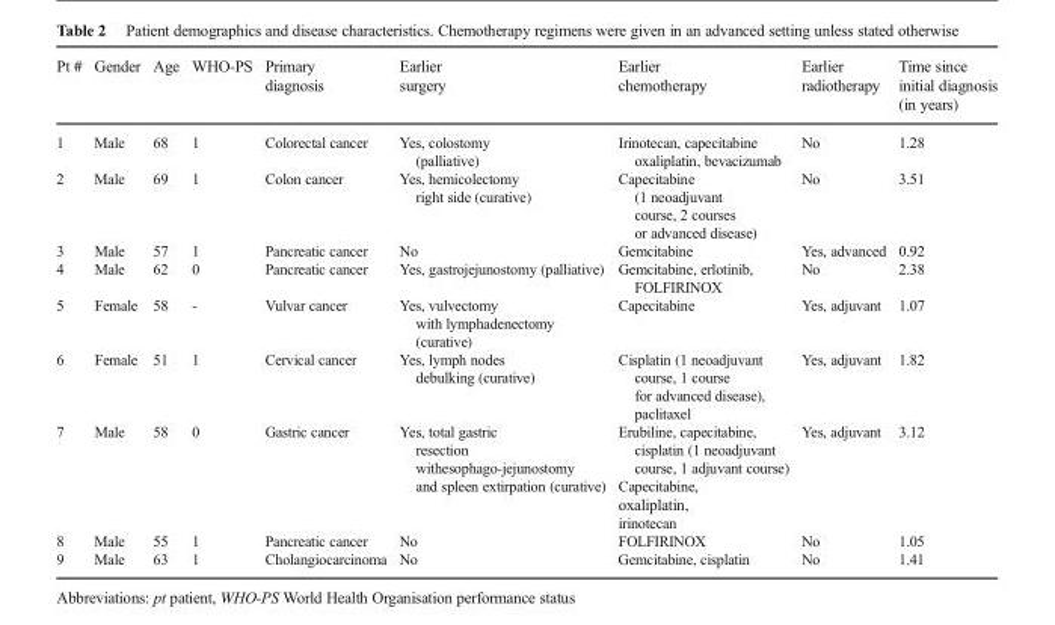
<table><thead><tr><td>Pt #</td><td>Gender</td><td>Age</td><td>WHO-PS</td><td>Primary diagnosis</td><td>Earlier surgery</td><td>Earlier chemotherapy</td><td>Earlier radiotherapy</td><td>Time since initial diagnosis (in years)</td></tr></thead><tbody><tr><td>1</td><td>Male</td><td>68</td><td>1</td><td>Colorectal cancer</td><td>Yes, colostomy (palliative)</td><td>Irinotecan, capecitabine oxaliplatin, bevacizumab</td><td>No</td><td>1.28</td></tr><tr><td>2</td><td>Male</td><td>69</td><td>1</td><td>Colon cancer</td><td>Yes, hemicolectomy right side (curative)</td><td>Capecitabine (1 neoadjuvant course, 2 courses or advanced disease)</td><td>No</td><td>3.51</td></tr><tr><td>3</td><td>Male</td><td>57</td><td>1</td><td>Pancreatic cancer</td><td>No</td><td>Gemcitabine</td><td>Yes, advanced</td><td>0.92</td></tr><tr><td>4</td><td>Male</td><td>62</td><td>0</td><td>Pancreatic cancer</td><td>Yes, gastrojejunostomy (palliative)</td><td>Gemcitabine, erlotinib, FOLFIRINOX</td><td>No</td><td>2.38</td></tr><tr><td>5</td><td>Female</td><td>58</td><td>-</td><td>Vulvar cancer</td><td>Yes, vulvectomy with lymphadenectomy (curative)</td><td>Capecitabine</td><td>Yes, adjuvant</td><td>1.07</td></tr><tr><td>6</td><td>Female</td><td>51</td><td>1</td><td>Cervical cancer</td><td>Yes, lymph nodes debulking (curative)</td><td>Cisplatin (1 neoadjuvant course, 1 course for advanced disease), paclitaxel</td><td>Yes, adjuvant</td><td>1.82</td></tr><tr><td>7</td><td>Male</td><td>58</td><td>0</td><td>Gastric cancer</td><td>Yes, total gastric resection withesophago-jejunostomy and spleen extirpation (curative)</td><td>Erubiline, capecitabine, cisplatin (1 neoadjuvant course, 1 adjuvant course) Capecitabine, oxaliplatin, irinotecan</td><td>Yes, adjuvant</td><td>3.12</td></tr><tr><td>8</td><td>Male</td><td>55</td><td>1</td><td>Pancreatic cancer</td><td>No</td><td>FOLFIRINOX</td><td>No</td><td>1.05</td></tr><tr><td>9</td><td>Male</td><td>63</td><td>1</td><td>Cholangiocarcinoma</td><td>No</td><td>Gemcitabine, cisplatin</td><td>No</td><td>1.41</td></tr></tbody></table>